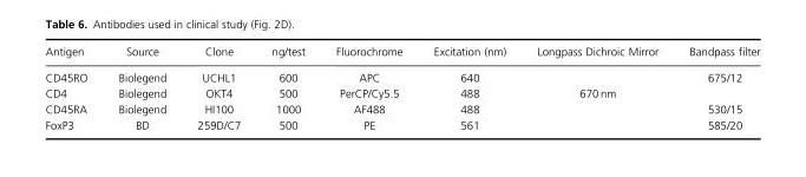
<table><thead><tr><td>Antigen</td><td>Source</td><td>Clone</td><td>ng/test</td><td>Fluorochrome</td><td>Excitation (nm)</td><td>Longpass Dichroic Mirror</td><td>Bandpass filter</td></tr></thead><tbody><tr><td>CD45RO</td><td>Biolegend</td><td>UCHL1</td><td>600</td><td>APC</td><td>640</td><td></td><td>675/12</td></tr><tr><td>CD4</td><td>Biolegend</td><td>OKT4</td><td>500</td><td>PerCP/Cy5.5</td><td>488</td><td>670 nm</td><td></td></tr><tr><td>CD45RA</td><td>Biolegend</td><td>HI100</td><td>1000</td><td>AF488</td><td>488</td><td></td><td>530/15</td></tr><tr><td>FoxP3</td><td>BD</td><td>259D/C7</td><td>500</td><td>PE</td><td>561</td><td></td><td>585/20</td></tr></tbody></table>